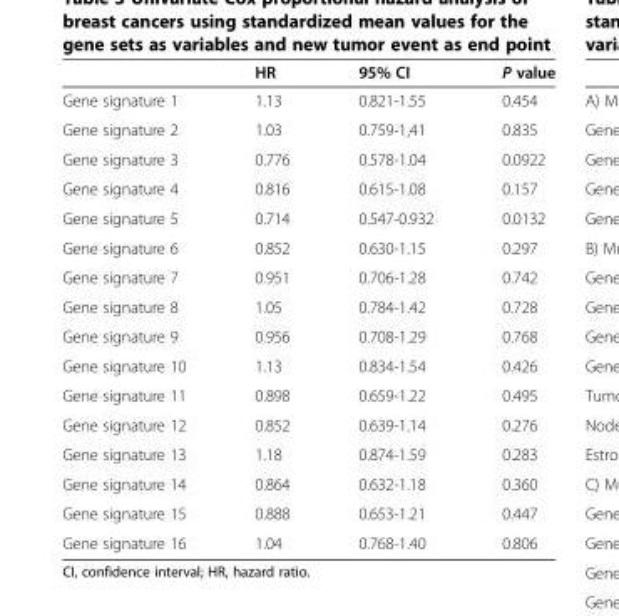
<table><thead><tr><td></td><td>HR</td><td>95% CI</td><td>P value</td></tr></thead><tbody><tr><td>Gene signature 1</td><td>1.13</td><td>0.821-1.55</td><td>0.454</td></tr><tr><td>Gene signature 2</td><td>1.03</td><td>0.759-1,41</td><td>0.835</td></tr><tr><td>Gene signature 3</td><td>0.776</td><td>0.578-1.04</td><td>0.0922</td></tr><tr><td>Gene signature 4</td><td>0.816</td><td>0.615-1.08</td><td>0.157</td></tr><tr><td>Gene signature 5</td><td>0.714</td><td>0.547-0.932</td><td>0.0132</td></tr><tr><td>Gene signature 6</td><td>0.852</td><td>0.630-1.15</td><td>0.297</td></tr><tr><td>Gene signature 7</td><td>0.951</td><td>0.706-1.28</td><td>0.742</td></tr><tr><td>Gene signature 8</td><td>1.05</td><td>0.784-1.42</td><td>0.728</td></tr><tr><td>Gene signature 9</td><td>0.956</td><td>0.708-1.29</td><td>0.768</td></tr><tr><td>Gene signature 10</td><td>1.13</td><td>0.834-1.54</td><td>0.426</td></tr><tr><td>Gene signature 11</td><td>0.898</td><td>0.659-1.22</td><td>0.495</td></tr><tr><td>Gene signature 12</td><td>0.852</td><td>0.639-1.14</td><td>0.276</td></tr><tr><td>Gene signature 13</td><td>1.18</td><td>0.874-1.59</td><td>0.283</td></tr><tr><td>Gene signature 14</td><td>0.864</td><td>0.632-1.18</td><td>0.360</td></tr><tr><td>Gene signature 15</td><td>0.888</td><td>0.653-1.21</td><td>0.447</td></tr><tr><td>Gene signature 16</td><td>1.04</td><td>0.768-1.40</td><td>0.806</td></tr></tbody></table>